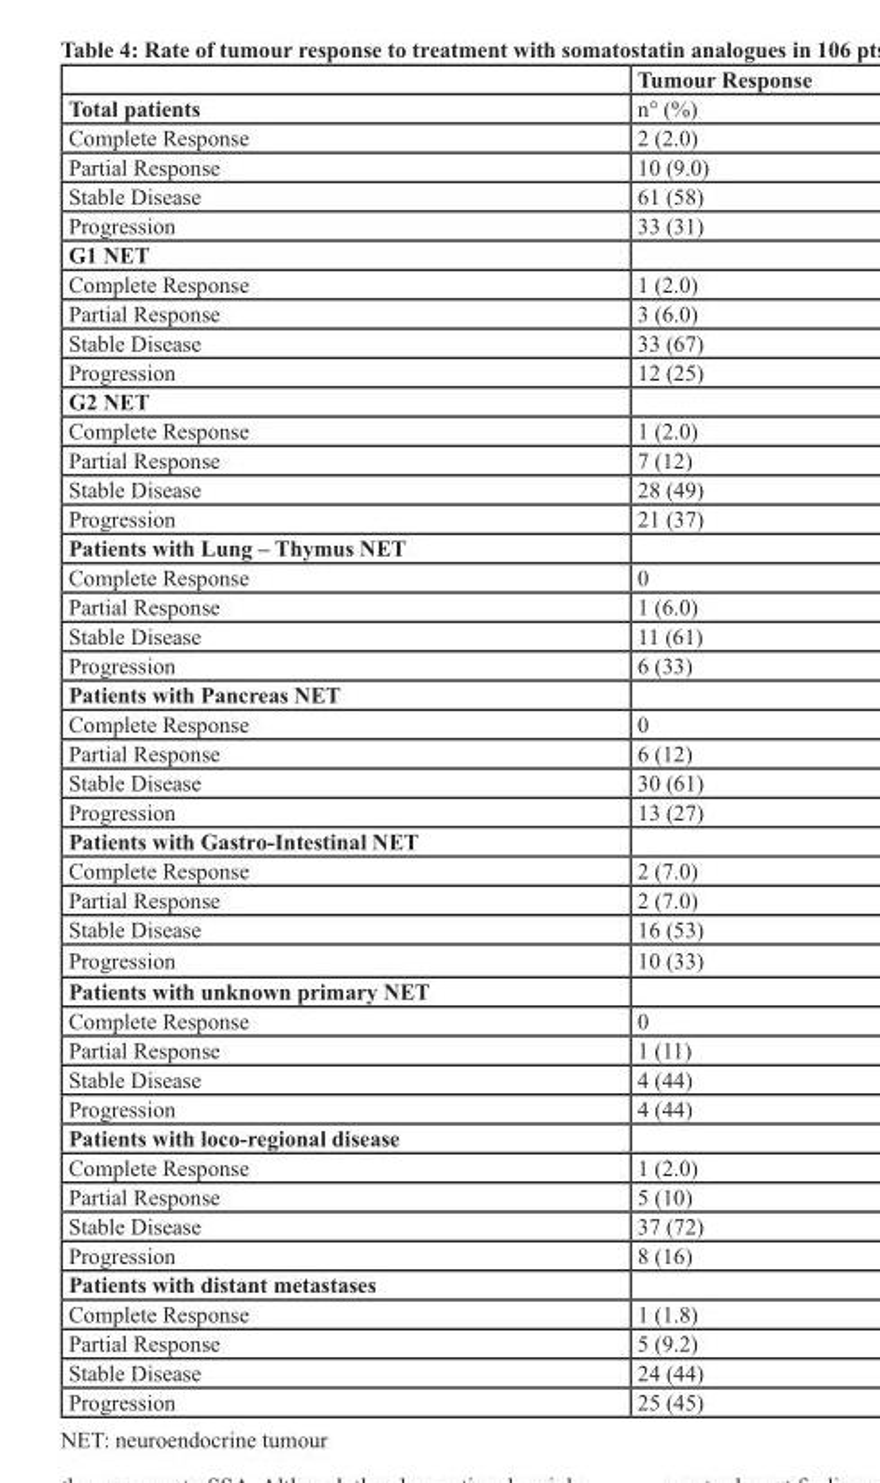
<table><thead><tr><td></td><td>Tumour Response</td></tr></thead><tbody><tr><td>Total patients</td><td>n° (%)</td></tr><tr><td>Complete Response</td><td>2 (2.0)</td></tr><tr><td>Partial Response</td><td>10 (9.0)</td></tr><tr><td>Stable Disease</td><td>61 (58)</td></tr><tr><td>Progression</td><td>33 (31)</td></tr><tr><td colspan="2">G1 NET</td></tr><tr><td>Complete Response</td><td>1 (2.0)</td></tr><tr><td>Partial Response</td><td>3 (6.0)</td></tr><tr><td>Stable Disease</td><td>33 (67)</td></tr><tr><td>Progression</td><td>12 (25)</td></tr><tr><td colspan="2">G2 NET</td></tr><tr><td>Complete Response</td><td>1 (2.0)</td></tr><tr><td>Partial Response</td><td>7 (12)</td></tr><tr><td>Stable Disease</td><td>28 (49)</td></tr><tr><td>Progression</td><td>21 (37)</td></tr><tr><td colspan="2">Patients with Lung – Thymus NET</td></tr><tr><td>Complete Response</td><td>0</td></tr><tr><td>Partial Response</td><td>1 (6.0)</td></tr><tr><td>Stable Disease</td><td>11 (61)</td></tr><tr><td>Progression</td><td>6 (33)</td></tr><tr><td colspan="2">Patients with Pancreas NET</td></tr><tr><td>Complete Response</td><td>0</td></tr><tr><td>Partial Response</td><td>6 (12)</td></tr><tr><td>Stable Disease</td><td>30 (61)</td></tr><tr><td>Progression</td><td>13 (27)</td></tr><tr><td colspan="2">Patients with Gastro-Intestinal NET</td></tr><tr><td>Complete Response</td><td>2 (7.0)</td></tr><tr><td>Partial Response</td><td>2 (7.0)</td></tr><tr><td>Stable Disease</td><td>16 (53)</td></tr><tr><td>Progression</td><td>10 (33)</td></tr><tr><td colspan="2">Patients with unknown primary NET</td></tr><tr><td>Complete Response</td><td>0</td></tr><tr><td>Partial Response</td><td>1 (11)</td></tr><tr><td>Stable Disease</td><td>4 (44)</td></tr><tr><td>Progression</td><td>4 (44)</td></tr><tr><td colspan="2">Patients with loco-regional disease</td></tr><tr><td>Complete Response</td><td>1 (2.0)</td></tr><tr><td>Partial Response</td><td>5 (10)</td></tr><tr><td>Stable Disease</td><td>37 (72)</td></tr><tr><td>Progression</td><td>8 (16)</td></tr><tr><td colspan="2">Patients with distant metastases</td></tr><tr><td>Complete Response</td><td>1 (1.8)</td></tr><tr><td>Partial Response</td><td>5 (9.2)</td></tr><tr><td>Stable Disease</td><td>24 (44)</td></tr><tr><td>Progression</td><td>25 (45)</td></tr></tbody></table>